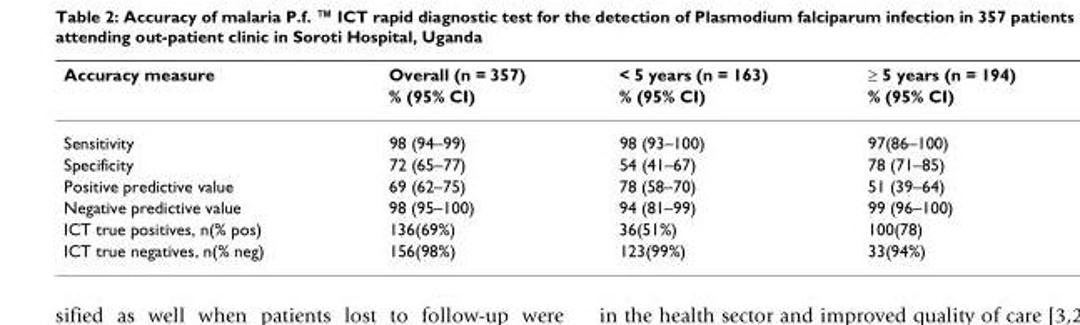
<table><thead><tr><td rowspan="2">Accuracy measure</td><td rowspan="2">Overall (n = 357) % (95% CI)</td><td rowspan="2">&lt; 5 years (n = 163) % (95% CI)</td><td rowspan="2">≥ 5 years (n = 194) % (95% CI)</td></tr><tr></tr></thead><tbody><tr><td>Sensitivity</td><td>98 (94–99)</td><td>98 (93–100)</td><td>97(86–100)</td></tr><tr><td>Specificity</td><td>72 (65–77)</td><td>54 (41–67)</td><td>78 (71–85)</td></tr><tr><td>Positive predictive value</td><td>69 (62–75)</td><td>78 (58–70)</td><td>51 (39–64)</td></tr><tr><td>Negative predictive value</td><td>98 (95–100)</td><td>94 (81–99)</td><td>99 (96–100)</td></tr><tr><td>ICT true positives, n(% pos)</td><td>136(69%)</td><td>36(51%)</td><td>100(78)</td></tr><tr><td>ICT true negatives, n(% neg)</td><td>156(98%)</td><td>123(99%)</td><td>33(94%)</td></tr></tbody></table>